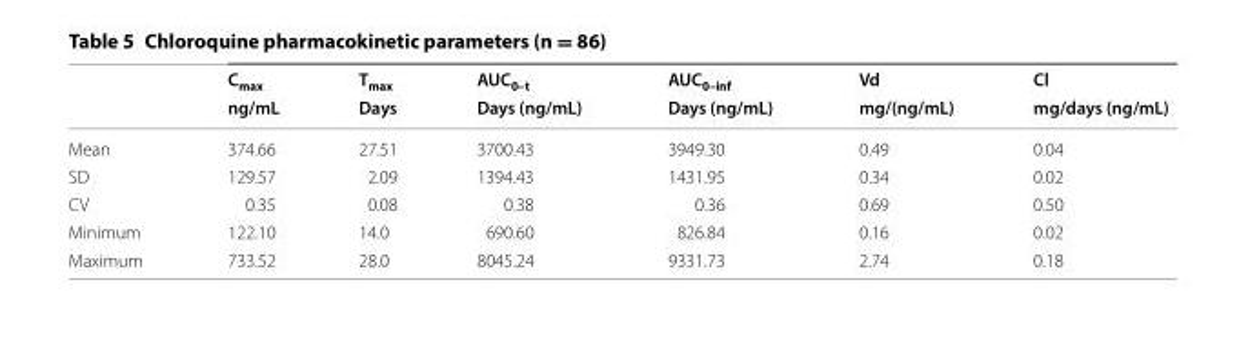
<table><thead><tr><td rowspan="2"></td><td rowspan="2">C<sub>max</sub> ng/mL</td><td rowspan="2">T<sub>max</sub> Days</td><td rowspan="2">AUC<sub>0–t</sub> Days (ng/mL)</td><td rowspan="2">AUC<sub>0–inf</sub> Days (ng/mL)</td><td rowspan="2">Vd mg/(ng/mL)</td><td rowspan="2">Cl mg/days (ng/mL)</td></tr><tr></tr></thead><tbody><tr><td>Mean</td><td>374.66</td><td>27.51</td><td>3700.43</td><td>3949.30</td><td>0.49</td><td>0.04</td></tr><tr><td>SD</td><td>129.57</td><td>2.09</td><td>1394.43</td><td>1431.95</td><td>0.34</td><td>0.02</td></tr><tr><td>CV</td><td>0.35</td><td>0.08</td><td>0.38</td><td>0.36</td><td>0.69</td><td>0.50</td></tr><tr><td>Minimum</td><td>122.10</td><td>14.0</td><td>690.60</td><td>826.84</td><td>0.16</td><td>0.02</td></tr><tr><td>Maximum</td><td>733.52</td><td>28.0</td><td>8045.24</td><td>9331.73</td><td>2.74</td><td>0.18</td></tr></tbody></table>